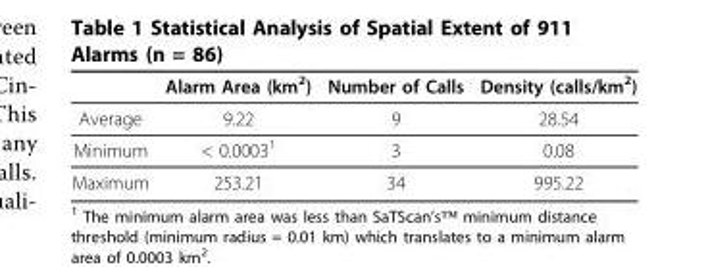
<table><thead><tr><td></td><td>Alarm Area (km<sup>2</sup>)</td><td>Number of Calls</td><td>Density (calls/km<sup>2</sup>)</td></tr></thead><tbody><tr><td>Average</td><td>9.22</td><td>9</td><td>28.54</td></tr><tr><td>Minimum</td><td>&lt; 0.0003<sup>1</sup></td><td>3</td><td>0.08</td></tr><tr><td>Maximum</td><td>253.21</td><td>34</td><td>995.22</td></tr></tbody></table>